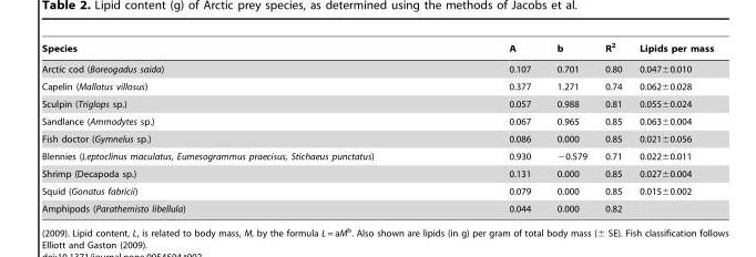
<table><thead><tr><td>Species</td><td>A</td><td>b</td><td>R<sup>2</sup></td><td>Lipids per mass</td></tr></thead><tbody><tr><td>Arctic cod (Boreogadus saida)</td><td>0.107</td><td>0.701</td><td>0.80</td><td>0.047±0.010</td></tr><tr><td>Capelin (Mallotus villosus)</td><td>0.377</td><td>1.271</td><td>0.74</td><td>0.062±0.028</td></tr><tr><td>Sculpin (Triglops sp.)</td><td>0.057</td><td>0.988</td><td>0.81</td><td>0.055±0.024</td></tr><tr><td>Sandlance (Ammodytes sp.)</td><td>0.067</td><td>0.965</td><td>0.85</td><td>0.063±0.004</td></tr><tr><td>Fish doctor (Gymnelus sp.)</td><td>0.086</td><td>0.000</td><td>0.85</td><td>0.021±0.056</td></tr><tr><td>Blennies (Leptoclinus maculatus, Eumesogrammus praecisus, Stichaeus punctatus)</td><td>0.930</td><td>−0.579</td><td>0.71</td><td>0.022±0.011</td></tr><tr><td>Shrimp (Decapoda sp.)</td><td>0.131</td><td>0.000</td><td>0.85</td><td>0.027±0.004</td></tr><tr><td>Squid (Gonatus fabricii)</td><td>0.079</td><td>0.000</td><td>0.85</td><td>0.015±0.002</td></tr><tr><td>Amphipods (Parathemisto libellula)</td><td>0.044</td><td>0.000</td><td>0.82</td><td></td></tr></tbody></table>